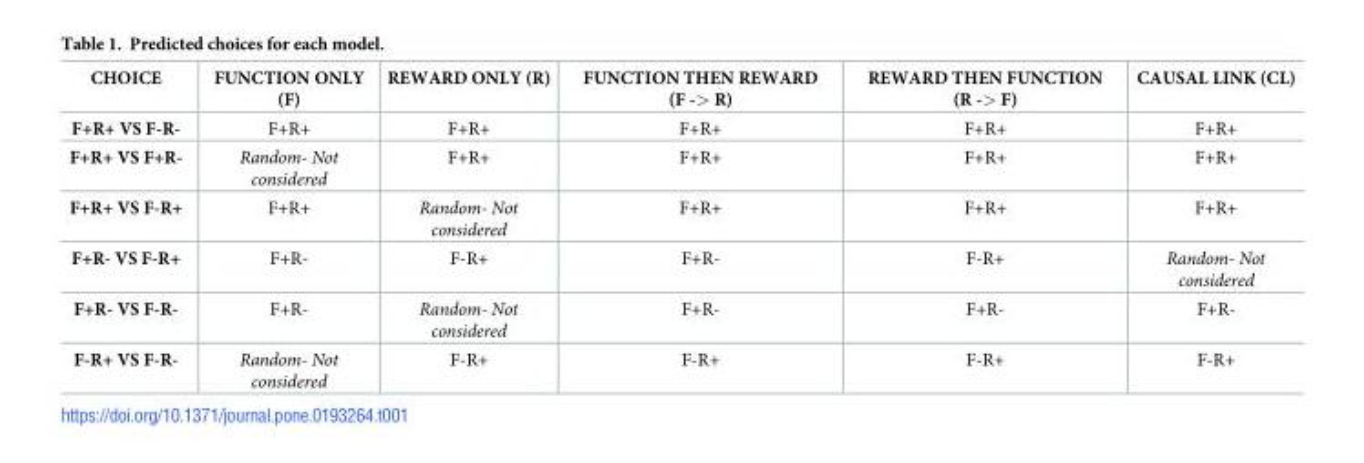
<table><thead><tr><td>CHOICE</td><td>FUNCTION ONLY (F)</td><td>REWARD ONLY (R)</td><td>FUNCTION THEN REWARD (F -&gt; R)</td><td>REWARD THEN FUNCTION (R -&gt; F)</td><td>CAUSAL LINK (CL)</td></tr></thead><tbody><tr><td>F+R+ VS F-R-</td><td>F+R+</td><td>F+R+</td><td>F+R+</td><td>F+R+</td><td>F+R+</td></tr><tr><td>F+R+ VS F+R-</td><td>Random- Not considered</td><td>F+R+</td><td>F+R+</td><td>F+R+</td><td>F+R+</td></tr><tr><td>F+R+ VS F-R+</td><td>F+R+</td><td>Random- Not considered</td><td>F+R+</td><td>F+R+</td><td>F+R+</td></tr><tr><td>F+R- VS F-R+</td><td>F+R-</td><td>F-R+</td><td>F+R-</td><td>F-R+</td><td>Random- Not considered</td></tr><tr><td>F+R- VS F-R-</td><td>F+R-</td><td>Random- Not considered</td><td>F+R-</td><td>F+R-</td><td>F+R-</td></tr><tr><td>F-R+ VS F-R-</td><td>Random- Not considered</td><td>F-R+</td><td>F-R+</td><td>F-R+</td><td>F-R+</td></tr></tbody></table>